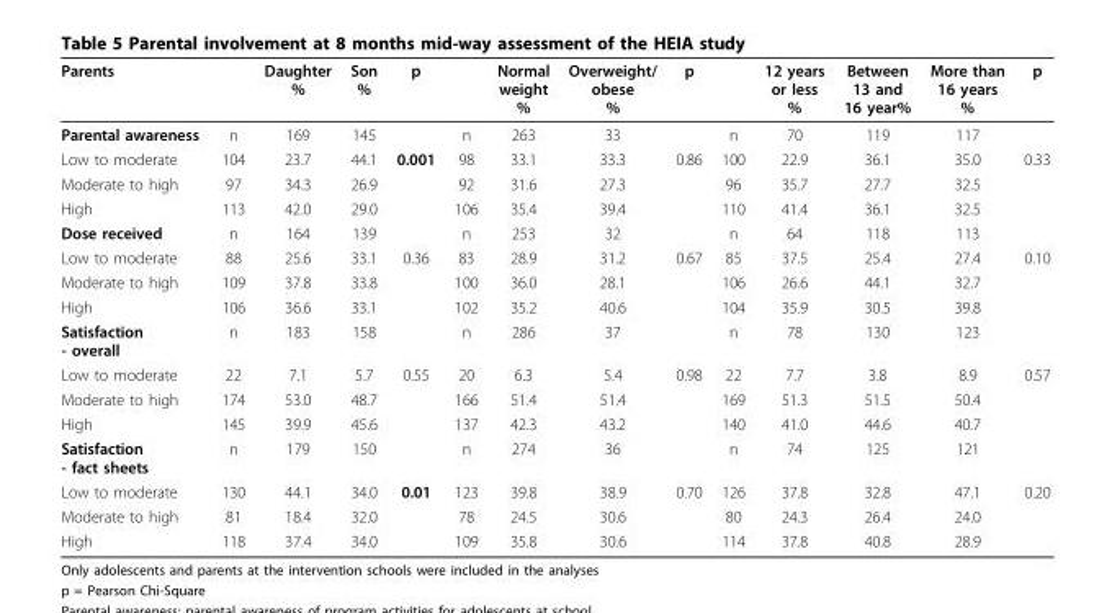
<table><thead><tr><td>Parents</td><td></td><td>Daughter %</td><td>Son %</td><td>p</td><td></td><td>Normal weight %</td><td>Overweight/ obese %</td><td>p</td><td></td><td>12 years or less %</td><td>Between 13 and 16 year%</td><td>More than 16 years %</td><td>p</td></tr></thead><tbody><tr><td>Parental awareness</td><td>n</td><td>169</td><td>145</td><td></td><td>n</td><td>263</td><td>33</td><td></td><td>n</td><td>70</td><td>119</td><td>117</td><td></td></tr><tr><td>Low to moderate</td><td>104</td><td>23.7</td><td>44.1</td><td>0.001</td><td>98</td><td>33.1</td><td>33.3</td><td>0.86</td><td>100</td><td>22.9</td><td>36.1</td><td>35.0</td><td>0.33</td></tr><tr><td>Moderate to high</td><td>97</td><td>34.3</td><td>26.9</td><td></td><td>92</td><td>31.6</td><td>27.3</td><td></td><td>96</td><td>35.7</td><td>27.7</td><td>32.5</td><td></td></tr><tr><td>High</td><td>113</td><td>42.0</td><td>29.0</td><td></td><td>106</td><td>35.4</td><td>39.4</td><td></td><td>110</td><td>41.4</td><td>36.1</td><td>32.5</td><td></td></tr><tr><td>Dose received</td><td>n</td><td>164</td><td>139</td><td></td><td>n</td><td>253</td><td>32</td><td></td><td>n</td><td>64</td><td>118</td><td>113</td><td></td></tr><tr><td>Low to moderate</td><td>88</td><td>25.6</td><td>33.1</td><td>0.36</td><td>83</td><td>28.9</td><td>31.2</td><td>0.67</td><td>85</td><td>37.5</td><td>25.4</td><td>27.4</td><td>0.10</td></tr><tr><td>Moderate to high</td><td>109</td><td>37.8</td><td>33.8</td><td></td><td>100</td><td>36.0</td><td>28.1</td><td></td><td>106</td><td>26.6</td><td>44.1</td><td>32.7</td><td></td></tr><tr><td>High</td><td>106</td><td>36.6</td><td>33.1</td><td></td><td>102</td><td>35.2</td><td>40.6</td><td></td><td>104</td><td>35.9</td><td>30.5</td><td>39.8</td><td></td></tr><tr><td>Satisfaction - overall</td><td>n</td><td>183</td><td>158</td><td></td><td>n</td><td>286</td><td>37</td><td></td><td>n</td><td>78</td><td>130</td><td>123</td><td></td></tr><tr><td>Low to moderate</td><td>22</td><td>7.1</td><td>5.7</td><td>0.55</td><td>20</td><td>6.3</td><td>5.4</td><td>0.98</td><td>22</td><td>7.7</td><td>3.8</td><td>8.9</td><td>0.57</td></tr><tr><td>Moderate to high</td><td>174</td><td>53.0</td><td>48.7</td><td></td><td>166</td><td>51.4</td><td>51.4</td><td></td><td>169</td><td>51.3</td><td>51.5</td><td>50.4</td><td></td></tr><tr><td>High</td><td>145</td><td>39.9</td><td>45.6</td><td></td><td>137</td><td>42.3</td><td>43.2</td><td></td><td>140</td><td>41.0</td><td>44.6</td><td>40.7</td><td></td></tr><tr><td>Satisfaction - fact sheets</td><td>n</td><td>179</td><td>150</td><td></td><td>n</td><td>274</td><td>36</td><td></td><td>n</td><td>74</td><td>125</td><td>121</td><td></td></tr><tr><td>Low to moderate</td><td>130</td><td>44.1</td><td>34.0</td><td>0.01</td><td>123</td><td>39.8</td><td>38.9</td><td>0.70</td><td>126</td><td>37.8</td><td>32.8</td><td>47.1</td><td>0.20</td></tr><tr><td>Moderate to high</td><td>81</td><td>18.4</td><td>32.0</td><td></td><td>78</td><td>24.5</td><td>30.6</td><td></td><td>80</td><td>24.3</td><td>26.4</td><td>24.0</td><td></td></tr><tr><td>High</td><td>118</td><td>37.4</td><td>34.0</td><td></td><td>109</td><td>35.8</td><td>30.6</td><td></td><td>114</td><td>37.8</td><td>40.8</td><td>28.9</td><td></td></tr></tbody></table>